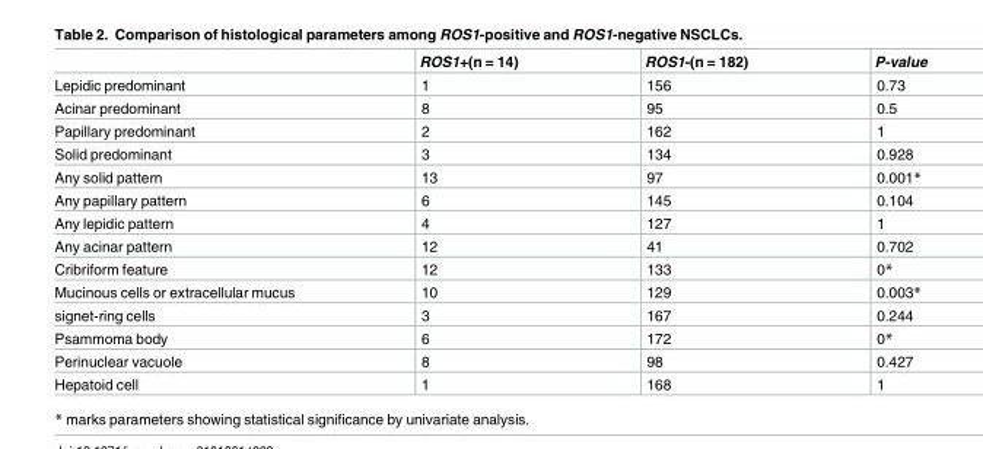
<table><thead><tr><td></td><td>ROS1+(n = 14)</td><td>ROS1-(n = 182)</td><td>P-value</td></tr></thead><tbody><tr><td>Lepidic predominant</td><td>1</td><td>156</td><td>0.73</td></tr><tr><td>Acinar predominant</td><td>8</td><td>95</td><td>0.5</td></tr><tr><td>Papillary predominant</td><td>2</td><td>162</td><td>1</td></tr><tr><td>Solid predominant</td><td>3</td><td>134</td><td>0.928</td></tr><tr><td>Any solid pattern</td><td>13</td><td>97</td><td>0.001*</td></tr><tr><td>Any papillary pattern</td><td>6</td><td>145</td><td>0.104</td></tr><tr><td>Any lepidic pattern</td><td>4</td><td>127</td><td>1</td></tr><tr><td>Any acinar pattern</td><td>12</td><td>41</td><td>0.702</td></tr><tr><td>Cribriform feature</td><td>12</td><td>133</td><td>0*</td></tr><tr><td>Mucinous cells or extracellular mucus</td><td>10</td><td>129</td><td>0.003*</td></tr><tr><td>signet-ring cells</td><td>3</td><td>167</td><td>0.244</td></tr><tr><td>Psammoma body</td><td>6</td><td>172</td><td>0*</td></tr><tr><td>Perinuclear vacuole</td><td>8</td><td>98</td><td>0.427</td></tr><tr><td>Hepatoid cell</td><td>1</td><td>168</td><td>1</td></tr></tbody></table>